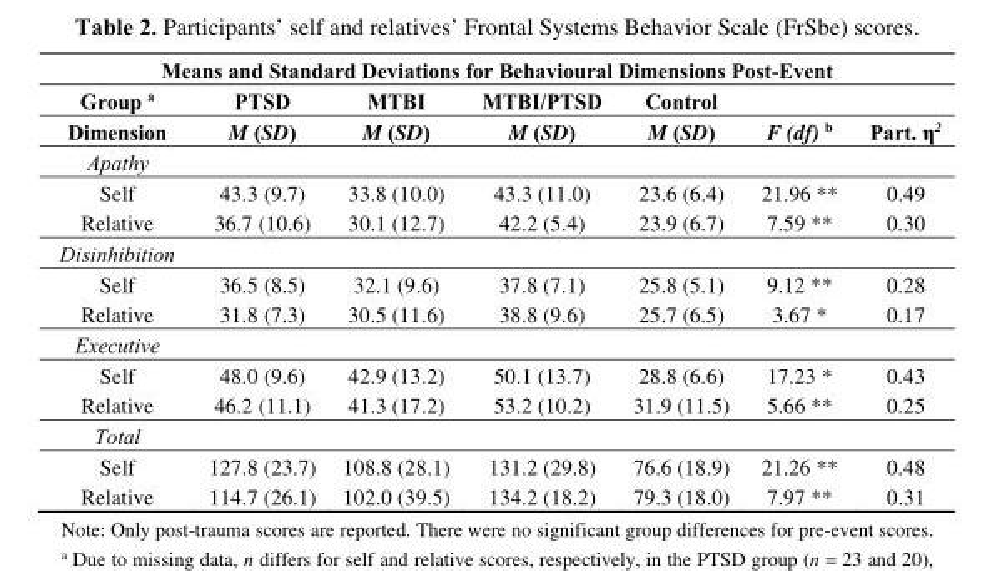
<table><thead><tr><td colspan="7">Means and Standard Deviations for Behavioural Dimensions Post-Event</td></tr><tr><td rowspan="2">Group <sup>a</sup> Dimension</td><td rowspan="2">PTSD M (SD)</td><td rowspan="2">MTBI M (SD)</td><td rowspan="2">MTBI/PTSD M (SD)</td><td rowspan="2">Control M (SD)</td><td rowspan="2">F (df) <sup>b</sup></td><td rowspan="2">Part. η<sup>2</sup></td></tr><tr></tr></thead><tbody><tr><td colspan="7">Apathy</td></tr><tr><td>Self</td><td>43.3 (9.7)</td><td>33.8 (10.0)</td><td>43.3 (11.0)</td><td>23.6 (6.4)</td><td>21.96 **</td><td>0.49</td></tr><tr><td>Relative</td><td>36.7 (10.6)</td><td>30.1 (12.7)</td><td>42.2 (5.4)</td><td>23.9 (6.7)</td><td>7.59 **</td><td>0.30</td></tr><tr><td colspan="7">Disinhibition</td></tr><tr><td>Self</td><td>36.5 (8.5)</td><td>32.1 (9.6)</td><td>37.8 (7.1)</td><td>25.8 (5.1)</td><td>9.12 **</td><td>0.28</td></tr><tr><td>Relative</td><td>31.8 (7.3)</td><td>30.5 (11.6)</td><td>38.8 (9.6)</td><td>25.7 (6.5)</td><td>3.67 *</td><td>0.17</td></tr><tr><td colspan="7">Executive</td></tr><tr><td>Self</td><td>48.0 (9.6)</td><td>42.9 (13.2)</td><td>50.1 (13.7)</td><td>28.8 (6.6)</td><td>17.23 *</td><td>0.43</td></tr><tr><td>Relative</td><td>46.2 (11.1)</td><td>41.3 (17.2)</td><td>53.2 (10.2)</td><td>31.9 (11.5)</td><td>5.66 **</td><td>0.25</td></tr><tr><td colspan="7">Total</td></tr><tr><td>Self</td><td>127.8 (23.7)</td><td>108.8 (28.1)</td><td>131.2 (29.8)</td><td>76.6 (18.9)</td><td>21.26 **</td><td>0.48</td></tr><tr><td>Relative</td><td>114.7 (26.1)</td><td>102.0 (39.5)</td><td>134.2 (18.2)</td><td>79.3 (18.0)</td><td>7.97 **</td><td>0.31</td></tr></tbody></table>